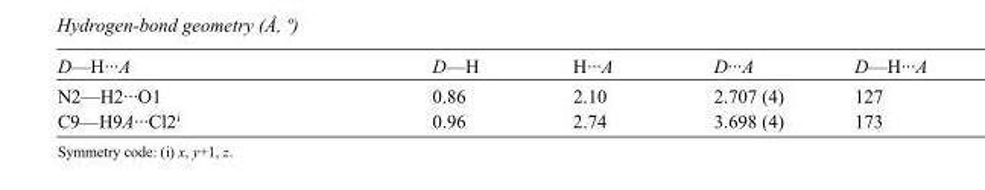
<table><tbody><tr><td>D—H···A</td><td>D—H</td><td>H···A</td><td>D···A</td><td>D—H···A</td></tr><tr><td>N2—H2···O1</td><td>0.86</td><td>2.10</td><td>2.707 (4)</td><td>127</td></tr><tr><td>C9—H9A···Cl2<sup>i</sup></td><td>0.96</td><td>2.74</td><td>3.698 (4)</td><td>173</td></tr></tbody></table>